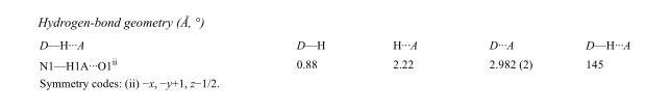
<table><tbody><tr><td>D—H···A</td><td>D—H</td><td>H···A</td><td>D···A</td><td>D—H···A</td></tr><tr><td>N1—H1A···O1<sup>ii</sup></td><td>0.88</td><td>2.22</td><td>2.982 (2)</td><td>145</td></tr></tbody></table>